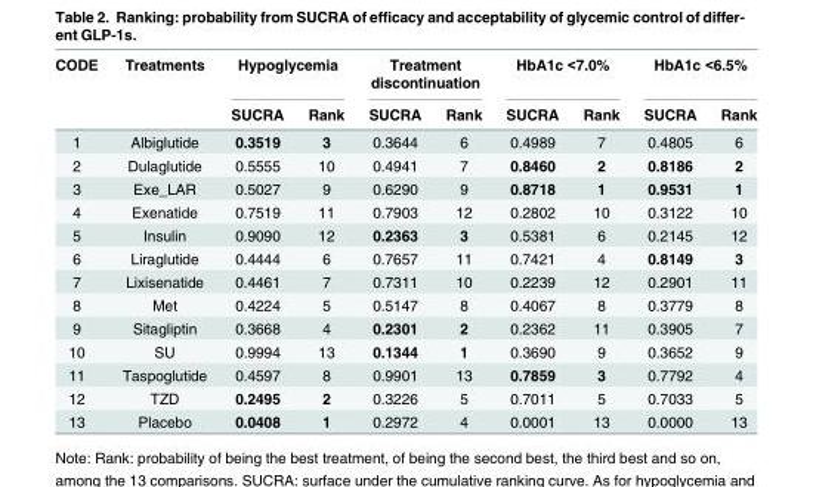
<table><thead><tr><td rowspan="2">CODE</td><td rowspan="2">Treatments</td><td colspan="2">Hypoglycemia</td><td colspan="2">Treatment discontinuation</td><td colspan="2">HbA1c &lt;7.0%</td><td colspan="2">HbA1c &lt;6.5%</td></tr><tr><td>SUCRA</td><td>Rank</td><td>SUCRA</td><td>Rank</td><td>SUCRA</td><td>Rank</td><td>SUCRA</td><td>Rank</td></tr></thead><tbody><tr><td>1</td><td>Albiglutide</td><td>0.3519</td><td>3</td><td>0.3644</td><td>6</td><td>0.4989</td><td>7</td><td>0.4805</td><td>6</td></tr><tr><td>2</td><td>Dulaglutide</td><td>0.5555</td><td>10</td><td>0.4941</td><td>7</td><td>0.8460</td><td>2</td><td>0.8186</td><td>2</td></tr><tr><td>3</td><td>Exe_LAR</td><td>0.5027</td><td>9</td><td>0.6290</td><td>9</td><td>0.8718</td><td>1</td><td>0.9531</td><td>1</td></tr><tr><td>4</td><td>Exenatide</td><td>0.7519</td><td>11</td><td>0.7903</td><td>12</td><td>0.2802</td><td>10</td><td>0.3122</td><td>10</td></tr><tr><td>5</td><td>Insulin</td><td>0.9090</td><td>12</td><td>0.2363</td><td>3</td><td>0.5381</td><td>6</td><td>0.2145</td><td>12</td></tr><tr><td>6</td><td>Liraglutide</td><td>0.4444</td><td>6</td><td>0.7657</td><td>11</td><td>0.7421</td><td>4</td><td>0.8149</td><td>3</td></tr><tr><td>7</td><td>Lixisenatide</td><td>0.4461</td><td>7</td><td>0.7311</td><td>10</td><td>0.2239</td><td>12</td><td>0.2901</td><td>11</td></tr><tr><td>8</td><td>Met</td><td>0.4224</td><td>5</td><td>0.5147</td><td>8</td><td>0.4067</td><td>8</td><td>0.3779</td><td>8</td></tr><tr><td>9</td><td>Sitagliptin</td><td>0.3668</td><td>4</td><td>0.2301</td><td>2</td><td>0.2362</td><td>11</td><td>0.3905</td><td>7</td></tr><tr><td>10</td><td>SU</td><td>0.9994</td><td>13</td><td>0.1344</td><td>1</td><td>0.3690</td><td>9</td><td>0.3652</td><td>9</td></tr><tr><td>11</td><td>Taspoglutide</td><td>0.4597</td><td>8</td><td>0.9901</td><td>13</td><td>0.7859</td><td>3</td><td>0.7792</td><td>4</td></tr><tr><td>12</td><td>TZD</td><td>0.2495</td><td>2</td><td>0.3226</td><td>5</td><td>0.7011</td><td>5</td><td>0.7033</td><td>5</td></tr><tr><td>13</td><td>Placebo</td><td>0.0408</td><td>1</td><td>0.2972</td><td>4</td><td>0.0001</td><td>13</td><td>0.0000</td><td>13</td></tr></tbody></table>